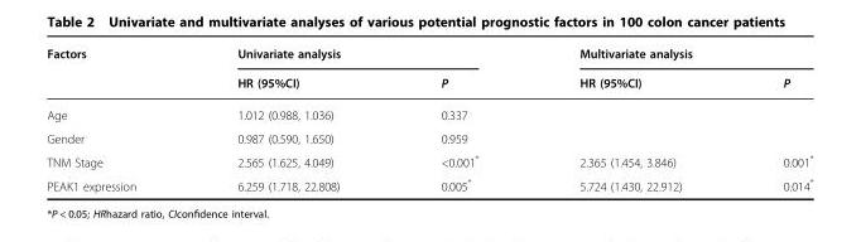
<table><thead><tr><td rowspan="2">Factors</td><td colspan="2">Univariate analysis</td><td colspan="2">Multivariate analysis</td></tr><tr><td>HR (95%CI)</td><td>P</td><td>HR (95%CI)</td><td>P</td></tr></thead><tbody><tr><td>Age</td><td>1.012 (0.988, 1.036)</td><td>0.337</td><td></td><td></td></tr><tr><td>Gender</td><td>0.987 (0.590, 1.650)</td><td>0.959</td><td></td><td></td></tr><tr><td>TNM Stage</td><td>2.565 (1.625, 4.049)</td><td>&lt;0.001*</td><td>2.365 (1.454, 3.846)</td><td>0.001*</td></tr><tr><td>PEAK1 expression</td><td>6.259 (1.718, 22.808)</td><td>0.005*</td><td>5.724 (1.430, 22.912)</td><td>0.014*</td></tr></tbody></table>